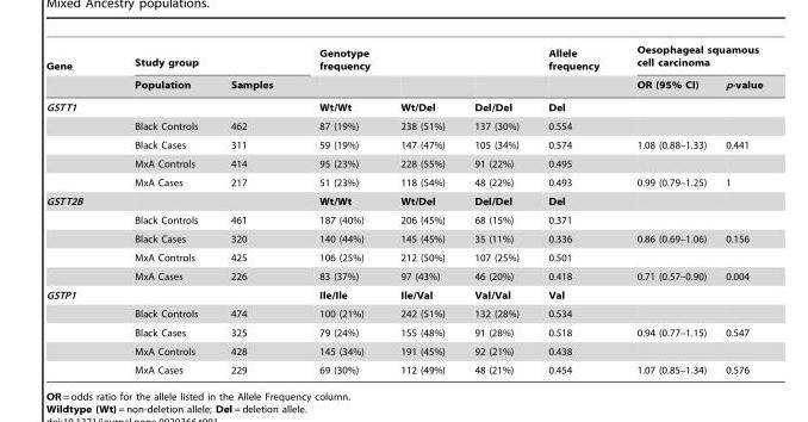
<table><thead><tr><td rowspan="2">Gene</td><td colspan="2">Study group</td><td colspan="3">Genotype frequency</td><td rowspan="2">Allele frequency</td><td colspan="2">Oesophageal squamous cell carcinoma</td></tr><tr><td>Population</td><td>Samples</td><td></td><td></td><td></td><td>OR (95% CI)</td><td>p-value</td></tr></thead><tbody><tr><td rowspan="5">GSTT1</td><td></td><td></td><td>Wt/Wt</td><td>Wt/Del</td><td>Del/Del</td><td>Del</td><td></td><td></td></tr><tr><td>Black Controls</td><td>462</td><td>87 (19%)</td><td>238 (51%)</td><td>137 (30%)</td><td>0.554</td><td></td><td></td></tr><tr><td>Black Cases</td><td>311</td><td>59 (19%)</td><td>147 (47%)</td><td>105 (34%)</td><td>0.574</td><td>1.08 (0.88–1.33)</td><td>0.441</td></tr><tr><td>MxA Controls</td><td>414</td><td>95 (23%)</td><td>228 (55%)</td><td>91 (22%)</td><td>0.495</td><td></td><td></td></tr><tr><td>MxA Cases</td><td>217</td><td>51 (23%)</td><td>118 (54%)</td><td>48 (22%)</td><td>0.493</td><td>0.99 (0.79–1.25)</td><td>1</td></tr><tr><td rowspan="5">GSTT2B</td><td></td><td></td><td>Wt/Wt</td><td>Wt/Del</td><td>Del/Del</td><td>Del</td><td></td><td></td></tr><tr><td>Black Controls</td><td>461</td><td>187 (40%)</td><td>206 (45%)</td><td>68 (15%)</td><td>0.371</td><td></td><td></td></tr><tr><td>Black Cases</td><td>320</td><td>140 (44%)</td><td>145 (45%)</td><td>35 (11%)</td><td>0.336</td><td>0.86 (0.69–1.06)</td><td>0.156</td></tr><tr><td>MxA Controls</td><td>425</td><td>106 (25%)</td><td>212 (50%)</td><td>107 (25%)</td><td>0.501</td><td></td><td></td></tr><tr><td>MxA Cases</td><td>226</td><td>83 (37%)</td><td>97 (43%)</td><td>46 (20%)</td><td>0.418</td><td>0.71 (0.57–0.90)</td><td>0.004</td></tr><tr><td rowspan="5">GSTP1</td><td></td><td></td><td>Ile/Ile</td><td>Ile/Val</td><td>Val/Val</td><td>Val</td><td></td><td></td></tr><tr><td>Black Controls</td><td>474</td><td>100 (21%)</td><td>242 (51%)</td><td>132 (28%)</td><td>0.534</td><td></td><td></td></tr><tr><td>Black Cases</td><td>325</td><td>79 (24%)</td><td>155 (48%)</td><td>91 (28%)</td><td>0.518</td><td>0.94 (0.77–1.15)</td><td>0.547</td></tr><tr><td>MxA Controls</td><td>428</td><td>145 (34%)</td><td>191 (45%)</td><td>92 (21%)</td><td>0.438</td><td></td><td></td></tr><tr><td>MxA Cases</td><td>229</td><td>69 (30%)</td><td>112 (49%)</td><td>48 (21%)</td><td>0.454</td><td>1.07 (0.85–1.34)</td><td>0.576</td></tr></tbody></table>